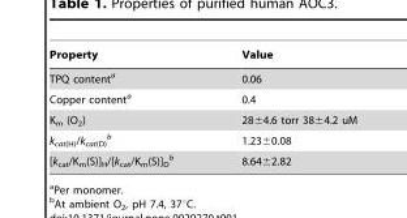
<table><thead><tr><td>Property</td><td>Value</td></tr></thead><tbody><tr><td>TPQ content<sup>a</sup></td><td>0.06</td></tr><tr><td>Copper content<sup>a</sup></td><td>0.4</td></tr><tr><td>K<sub>m</sub> (O<sub>2</sub>)</td><td>28±4.6 torr 38±4.2 uM</td></tr><tr><td>k<sub>cat(H)</sub>/k<sub>cat(D)</sub> b</td><td>1.23±0.08</td></tr><tr><td>[k<sub>cat</sub>/K<sub>m</sub>(S)]<sub>H</sub>/[k<sub>cat</sub>/K<sub>m</sub>(S)]<sub>D</sub> b</td><td>8.64±2.82</td></tr></tbody></table>